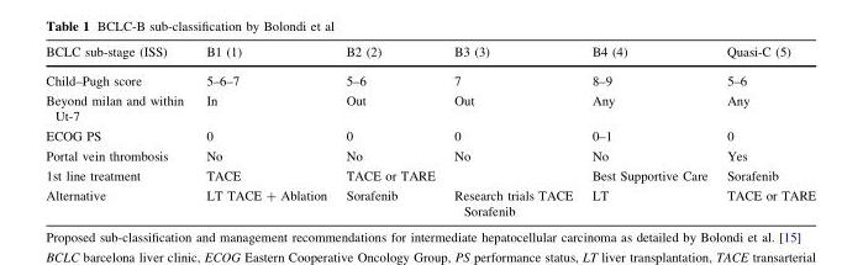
<table><thead><tr><td>BCLC sub-stage (ISS)</td><td>B1 (1)</td><td>B2 (2)</td><td>B3 (3)</td><td>B4 (4)</td><td>Quasi-C (5)</td></tr></thead><tbody><tr><td>Child–Pugh score</td><td>5–6–7</td><td>5–6</td><td>7</td><td>8–9</td><td>5–6</td></tr><tr><td>Beyond milan and within Ut-7</td><td>In</td><td>Out</td><td>Out</td><td>Any</td><td>Any</td></tr><tr><td>ECOG PS</td><td>0</td><td>0</td><td>0</td><td>0–1</td><td>0</td></tr><tr><td>Portal vein thrombosis</td><td>No</td><td>No</td><td>No</td><td>No</td><td>Yes</td></tr><tr><td>1st line treatment</td><td>TACE</td><td>TACE or TARE</td><td></td><td>Best Supportive Care</td><td>Sorafenib</td></tr><tr><td>Alternative</td><td>LT TACE + Ablation</td><td>Sorafenib</td><td>Research trials TACE Sorafenib</td><td>LT</td><td>TACE or TARE</td></tr></tbody></table>